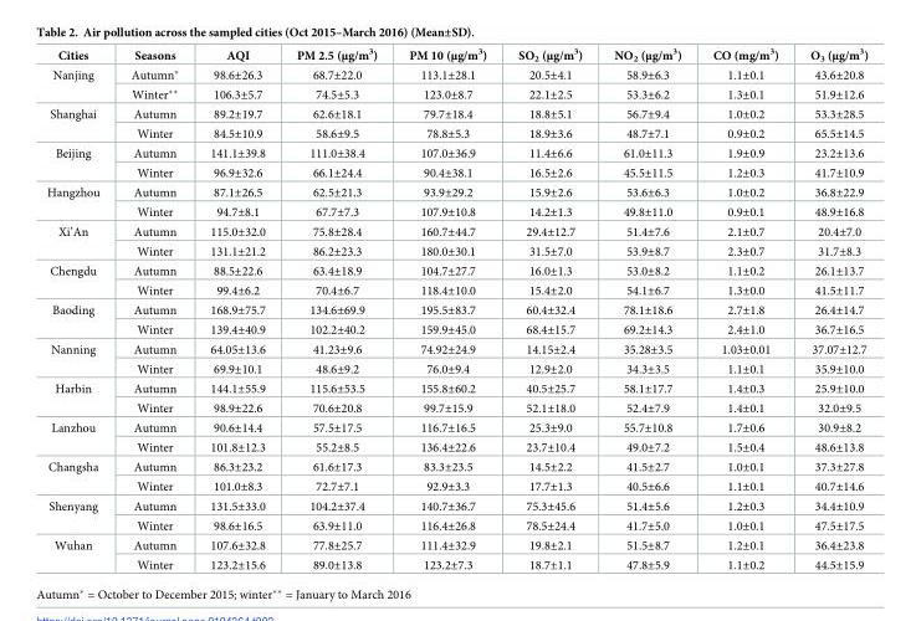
<table><thead><tr><td>Cities</td><td>Seasons</td><td>AQI</td><td>PM 2.5 (μg/m<sup>3</sup>)</td><td>PM 10 (μg/m<sup>3</sup>)</td><td>SO<sub>2</sub> (μg/m<sup>3</sup>)</td><td>NO<sub>2</sub> (μg/m<sup>3</sup>)</td><td>CO (mg/m<sup>3</sup>)</td><td>O<sub>3</sub> (μg/m<sup>3</sup>)</td></tr></thead><tbody><tr><td rowspan="2">Nanjing</td><td>Autumn*</td><td>98.6±26.3</td><td>68.7±22.0</td><td>113.1±28.1</td><td>20.5±4.1</td><td>58.9±6.3</td><td>1.1±0.1</td><td>43.6±20.8</td></tr><tr><td>Winter**</td><td>106.3±5.7</td><td>74.5±5.3</td><td>123.0±8.7</td><td>22.1±2.5</td><td>53.3±6.2</td><td>1.3±0.1</td><td>51.9±12.6</td></tr><tr><td rowspan="2">Shanghai</td><td>Autumn</td><td>89.2±19.7</td><td>62.6±18.1</td><td>79.7±18.4</td><td>18.8±5.1</td><td>56.7±9.4</td><td>1.0±0.2</td><td>53.3±28.5</td></tr><tr><td>Winter</td><td>84.5±10.9</td><td>58.6±9.5</td><td>78.8±5.3</td><td>18.9±3.6</td><td>48.7±7.1</td><td>0.9±0.2</td><td>65.5±14.5</td></tr><tr><td rowspan="2">Beijing</td><td>Autumn</td><td>141.1±39.8</td><td>111.0±38.4</td><td>107.0±36.9</td><td>11.4±6.6</td><td>61.0±11.3</td><td>1.9±0.9</td><td>23.2±13.6</td></tr><tr><td>Winter</td><td>96.9±32.6</td><td>66.1±24.4</td><td>90.4±38.1</td><td>16.5±2.6</td><td>45.5±11.5</td><td>1.2±0.3</td><td>41.7±10.9</td></tr><tr><td rowspan="2">Hangzhou</td><td>Autumn</td><td>87.1±26.5</td><td>62.5±21.3</td><td>93.9±29.2</td><td>15.9±2.6</td><td>53.6±6.3</td><td>1.0±0.2</td><td>36.8±22.9</td></tr><tr><td>Winter</td><td>94.7±8.1</td><td>67.7±7.3</td><td>107.9±10.8</td><td>14.2±1.3</td><td>49.8±11.0</td><td>0.9±0.1</td><td>48.9±16.8</td></tr><tr><td rowspan="2">Xi’An</td><td>Autumn</td><td>115.0±32.0</td><td>75.8±28.4</td><td>160.7±44.7</td><td>29.4±12.7</td><td>51.4±7.6</td><td>2.1±0.7</td><td>20.4±7.0</td></tr><tr><td>Winter</td><td>131.1±21.2</td><td>86.2±23.3</td><td>180.0±30.1</td><td>31.5±7.0</td><td>53.9±8.7</td><td>2.3±0.7</td><td>31.7±8.3</td></tr><tr><td rowspan="2">Chengdu</td><td>Autumn</td><td>88.5±22.6</td><td>63.4±18.9</td><td>104.7±27.7</td><td>16.0±1.3</td><td>53.0±8.2</td><td>1.1±0.2</td><td>26.1±13.7</td></tr><tr><td>Winter</td><td>99.4±6.2</td><td>70.4±6.7</td><td>118.4±10.0</td><td>15.4±2.0</td><td>54.1±6.7</td><td>1.3±0.0</td><td>41.5±11.7</td></tr><tr><td rowspan="2">Baoding</td><td>Autumn</td><td>168.9±75.7</td><td>134.6±69.9</td><td>195.5±83.7</td><td>60.4±32.4</td><td>78.1±18.6</td><td>2.7±1.8</td><td>26.4±14.7</td></tr><tr><td>Winter</td><td>139.4±40.9</td><td>102.2±40.2</td><td>159.9±45.0</td><td>68.4±15.7</td><td>69.2±14.3</td><td>2.4±1.0</td><td>36.7±16.5</td></tr><tr><td rowspan="2">Nanning</td><td>Autumn</td><td>64.05±13.6</td><td>41.23±9.6</td><td>74.92±24.9</td><td>14.15±2.4</td><td>35.28±3.5</td><td>1.03±0.01</td><td>37.07±12.7</td></tr><tr><td>Winter</td><td>69.9±10.1</td><td>48.6±9.2</td><td>76.0±9.4</td><td>12.9±2.0</td><td>34.3±3.5</td><td>1.1±0.1</td><td>35.9±10.0</td></tr><tr><td rowspan="2">Harbin</td><td>Autumn</td><td>144.1±55.9</td><td>115.6±53.5</td><td>155.8±60.2</td><td>40.5±25.7</td><td>58.1±17.7</td><td>1.4±0.3</td><td>25.9±10.0</td></tr><tr><td>Winter</td><td>98.9±22.6</td><td>70.6±20.8</td><td>99.7±15.9</td><td>52.1±18.0</td><td>52.4±7.9</td><td>1.4±0.1</td><td>32.0±9.5</td></tr><tr><td rowspan="2">Lanzhou</td><td>Autumn</td><td>90.6±14.4</td><td>57.5±17.5</td><td>116.7±16.5</td><td>25.3±9.0</td><td>55.7±10.8</td><td>1.7±0.6</td><td>30.9±8.2</td></tr><tr><td>Winter</td><td>101.8±12.3</td><td>55.2±8.5</td><td>136.4±22.6</td><td>23.7±10.4</td><td>49.0±7.2</td><td>1.5±0.4</td><td>48.6±13.8</td></tr><tr><td rowspan="2">Changsha</td><td>Autumn</td><td>86.3±23.2</td><td>61.6±17.3</td><td>83.3±23.5</td><td>14.5±2.2</td><td>41.5±2.7</td><td>1.0±0.1</td><td>37.3±27.8</td></tr><tr><td>Winter</td><td>101.0±8.3</td><td>72.7±7.1</td><td>92.9±3.3</td><td>17.7±1.3</td><td>40.5±6.6</td><td>1.1±0.1</td><td>40.7±14.6</td></tr><tr><td rowspan="2">Shenyang</td><td>Autumn</td><td>131.5±33.0</td><td>104.2±37.4</td><td>140.7±36.7</td><td>75.3±45.6</td><td>51.4±5.6</td><td>1.2±0.3</td><td>34.4±10.9</td></tr><tr><td>Winter</td><td>98.6±16.5</td><td>63.9±11.0</td><td>116.4±26.8</td><td>78.5±24.4</td><td>41.7±5.0</td><td>1.0±0.1</td><td>47.5±17.5</td></tr><tr><td rowspan="2">Wuhan</td><td>Autumn</td><td>107.6±32.8</td><td>77.8±25.7</td><td>111.4±32.9</td><td>19.8±2.1</td><td>51.5±8.7</td><td>1.2±0.1</td><td>36.4±23.8</td></tr><tr><td>Winter</td><td>123.2±15.6</td><td>89.0±13.8</td><td>123.2±7.3</td><td>18.7±1.1</td><td>47.8±5.9</td><td>1.1±0.2</td><td>44.5±15.9</td></tr></tbody></table>